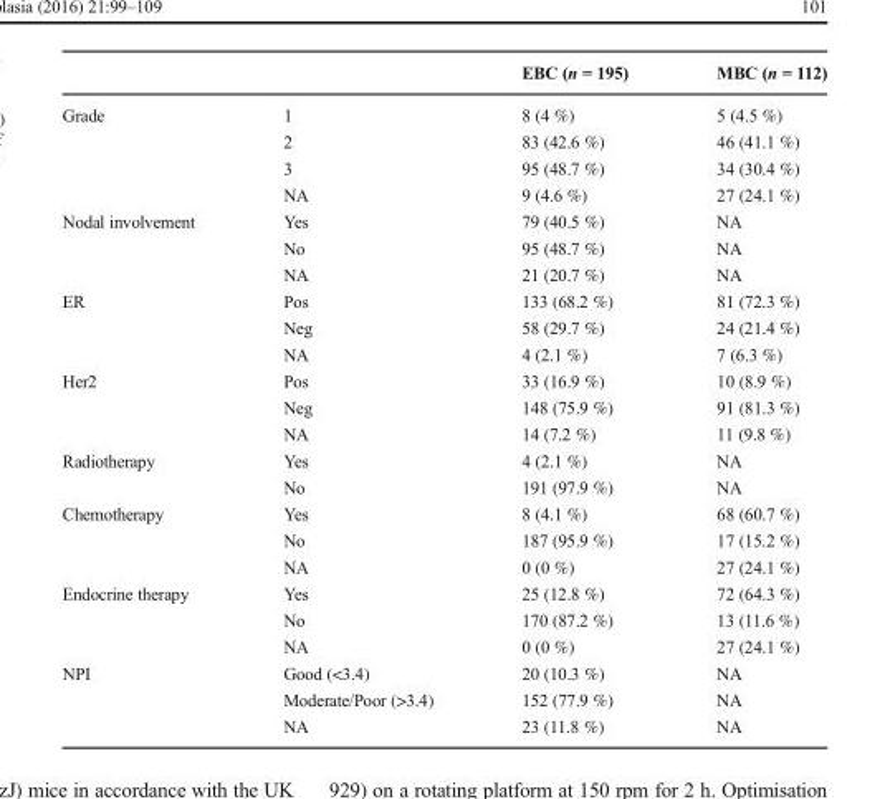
<table><thead><tr><td></td><td></td><td>EBC (n = 195)</td><td>MBC (n = 112)</td></tr></thead><tbody><tr><td rowspan="4">Grade</td><td>1</td><td>8 (4 %)</td><td>5 (4.5 %)</td></tr><tr><td>2</td><td>83 (42.6 %)</td><td>46 (41.1 %)</td></tr><tr><td>3</td><td>95 (48.7 %)</td><td>34 (30.4 %)</td></tr><tr><td>NA</td><td>9 (4.6 %)</td><td>27 (24.1 %)</td></tr><tr><td rowspan="3">Nodal involvement</td><td>Yes</td><td>79 (40.5 %)</td><td>NA</td></tr><tr><td>No</td><td>95 (48.7 %)</td><td>NA</td></tr><tr><td>NA</td><td>21 (20.7 %)</td><td>NA</td></tr><tr><td rowspan="3">ER</td><td>Pos</td><td>133 (68.2 %)</td><td>81 (72.3 %)</td></tr><tr><td>Neg</td><td>58 (29.7 %)</td><td>24 (21.4 %)</td></tr><tr><td>NA</td><td>4 (2.1 %)</td><td>7 (6.3 %)</td></tr><tr><td rowspan="3">Her2</td><td>Pos</td><td>33 (16.9 %)</td><td>10 (8.9 %)</td></tr><tr><td>Neg</td><td>148 (75.9 %)</td><td>91 (81.3 %)</td></tr><tr><td>NA</td><td>14 (7.2 %)</td><td>11 (9.8 %)</td></tr><tr><td rowspan="2">Radiotherapy</td><td>Yes</td><td>4 (2.1 %)</td><td>NA</td></tr><tr><td>No</td><td>191 (97.9 %)</td><td>NA</td></tr><tr><td rowspan="3">Chemotherapy</td><td>Yes</td><td>8 (4.1 %)</td><td>68 (60.7 %)</td></tr><tr><td>No</td><td>187 (95.9 %)</td><td>17 (15.2 %)</td></tr><tr><td>NA</td><td>0 (0 %)</td><td>27 (24.1 %)</td></tr><tr><td rowspan="3">Endocrine therapy</td><td>Yes</td><td>25 (12.8 %)</td><td>72 (64.3 %)</td></tr><tr><td>No</td><td>170 (87.2 %)</td><td>13 (11.6 %)</td></tr><tr><td>NA</td><td>0 (0 %)</td><td>27 (24.1 %)</td></tr><tr><td rowspan="3">NPI</td><td>Good (&lt;3.4)</td><td>20 (10.3 %)</td><td>NA</td></tr><tr><td>Moderate/Poor (&gt;3.4)</td><td>152 (77.9 %)</td><td>NA</td></tr><tr><td>NA</td><td>23 (11.8 %)</td><td>NA</td></tr></tbody></table>